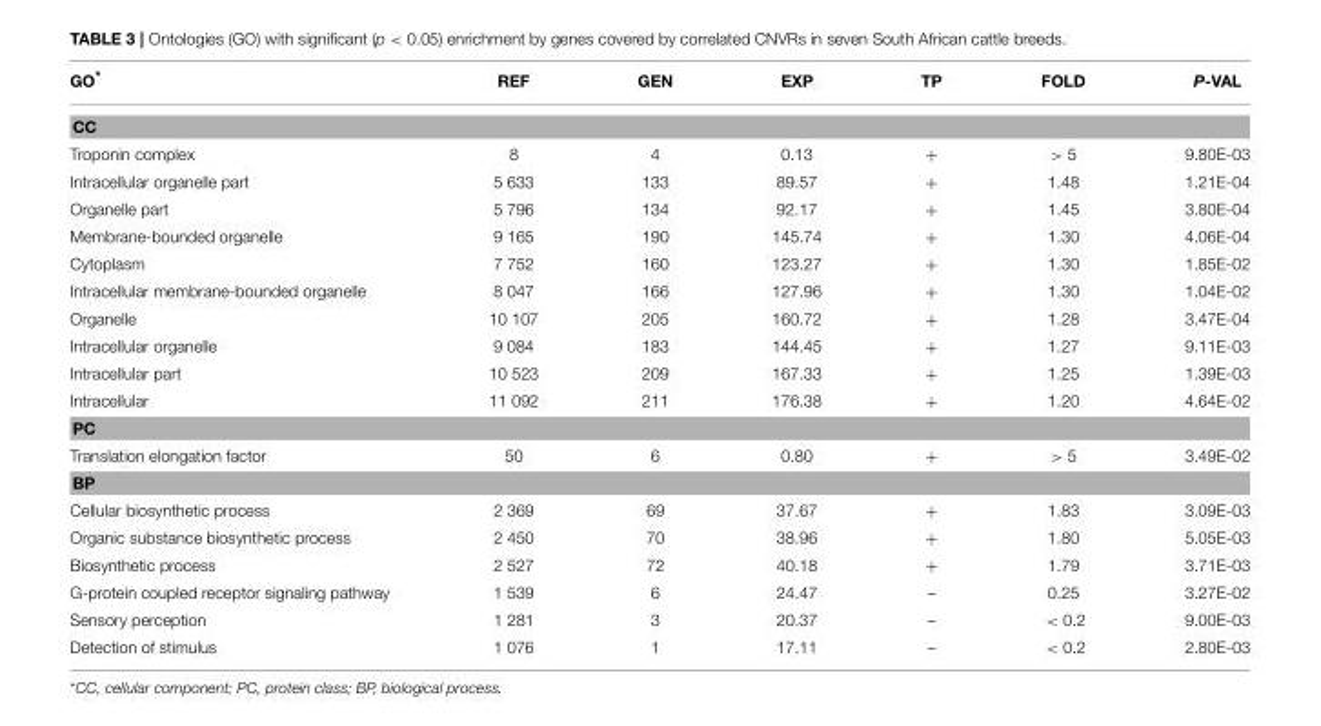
<table><thead><tr><td>GO*</td><td>REF</td><td>GEN</td><td>EXP</td><td>TP</td><td>FOLD</td><td>P-VAL</td></tr></thead><tbody><tr><td colspan="7">CC</td></tr><tr><td>Troponin complex</td><td>8</td><td>4</td><td>0.13</td><td>+</td><td>&gt; 5</td><td>9.80E-03</td></tr><tr><td>Intracellular organelle part</td><td>5 633</td><td>133</td><td>89.57</td><td>+</td><td>1.48</td><td>1.21E-04</td></tr><tr><td>Organelle part</td><td>5 796</td><td>134</td><td>92.17</td><td>+</td><td>1.45</td><td>3.80E-04</td></tr><tr><td>Membrane-bounded organelle</td><td>9 165</td><td>190</td><td>145.74</td><td>+</td><td>1.30</td><td>4.06E-04</td></tr><tr><td>Cytoplasm</td><td>7 752</td><td>160</td><td>123.27</td><td>+</td><td>1.30</td><td>1.85E-02</td></tr><tr><td>Intracellular membrane-bounded organelle</td><td>8 047</td><td>166</td><td>127.96</td><td>+</td><td>1.30</td><td>1.04E-02</td></tr><tr><td>Organelle</td><td>10 107</td><td>205</td><td>160.72</td><td>+</td><td>1.28</td><td>3.47E-04</td></tr><tr><td>Intracellular organelle</td><td>9 084</td><td>183</td><td>144.45</td><td>+</td><td>1.27</td><td>9.11E-03</td></tr><tr><td>Intracellular part</td><td>10 523</td><td>209</td><td>167.33</td><td>+</td><td>1.25</td><td>1.39E-03</td></tr><tr><td>Intracellular</td><td>11 092</td><td>211</td><td>176.38</td><td>+</td><td>1.20</td><td>4.64E-02</td></tr><tr><td colspan="7">PC</td></tr><tr><td>Translation elongation factor</td><td>50</td><td>6</td><td>0.80</td><td>+</td><td>&gt; 5</td><td>3.49E-02</td></tr><tr><td colspan="7">BP</td></tr><tr><td>Cellular biosynthetic process</td><td>2 369</td><td>69</td><td>37.67</td><td>+</td><td>1.83</td><td>3.09E-03</td></tr><tr><td>Organic substance biosynthetic process</td><td>2 450</td><td>70</td><td>38.96</td><td>+</td><td>1.80</td><td>5.05E-03</td></tr><tr><td>Biosynthetic process</td><td>2 527</td><td>72</td><td>40.18</td><td>+</td><td>1.79</td><td>3.71E-03</td></tr><tr><td>G-protein coupled receptor signaling pathway</td><td>1 539</td><td>6</td><td>24.47</td><td>–</td><td>0.25</td><td>3.27E-02</td></tr><tr><td>Sensory perception</td><td>1 281</td><td>3</td><td>20.37</td><td>–</td><td>&lt; 0.2</td><td>9.00E-03</td></tr><tr><td>Detection of stimulus</td><td>1 076</td><td>1</td><td>17.11</td><td>–</td><td>&lt; 0.2</td><td>2.80E-03</td></tr></tbody></table>